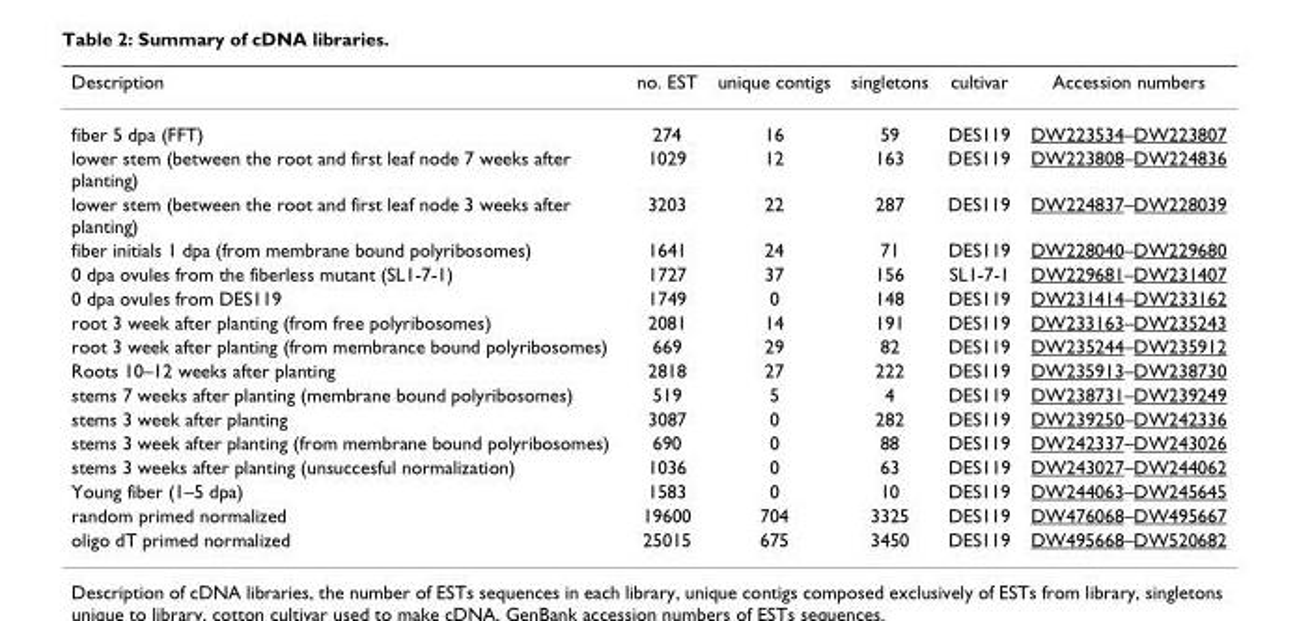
<table><thead><tr><td>Description</td><td>no. EST</td><td>unique contigs</td><td>singletons</td><td>cultivar</td><td>Accession numbers</td></tr></thead><tbody><tr><td>fiber 5 dpa (FFT)</td><td>274</td><td>16</td><td>59</td><td>DES119</td><td>DW223534–DW223807</td></tr><tr><td>lower stem (between the root and first leaf node 7 weeks after planting)</td><td>1029</td><td>12</td><td>163</td><td>DES119</td><td>DW223808–DW224836</td></tr><tr><td>lower stem (between the root and first leaf node 3 weeks after planting)</td><td>3203</td><td>22</td><td>287</td><td>DES119</td><td>DW224837–DW228039</td></tr><tr><td>fiber initials 1 dpa (from membrane bound polyribosomes)</td><td>1641</td><td>24</td><td>71</td><td>DES119</td><td>DW228040–DW229680</td></tr><tr><td>0 dpa ovules from the fiberless mutant (SL1-7-1)</td><td>1727</td><td>37</td><td>156</td><td>SL1-7-1</td><td>DW229681–DW231407</td></tr><tr><td>0 dpa ovules from DES119</td><td>1749</td><td>0</td><td>148</td><td>DES119</td><td>DW231414–DW233162</td></tr><tr><td>root 3 week after planting (from free polyribosomes)</td><td>2081</td><td>14</td><td>191</td><td>DES119</td><td>DW233163–DW235243</td></tr><tr><td>root 3 week after planting (from membrance bound polyribosomes)</td><td>669</td><td>29</td><td>82</td><td>DES119</td><td>DW235244–DW235912</td></tr><tr><td>Roots 10–12 weeks after planting</td><td>2818</td><td>27</td><td>222</td><td>DES119</td><td>DW235913–DW238730</td></tr><tr><td>stems 7 weeks after planting (membrane bound polyribosomes)</td><td>519</td><td>5</td><td>4</td><td>DES119</td><td>DW238731–DW239249</td></tr><tr><td>stems 3 week after planting</td><td>3087</td><td>0</td><td>282</td><td>DES119</td><td>DW239250–DW242336</td></tr><tr><td>stems 3 week after planting (from membrane bound polyribosomes)</td><td>690</td><td>0</td><td>88</td><td>DES119</td><td>DW242337–DW243026</td></tr><tr><td>stems 3 weeks after planting (unsuccesful normalization)</td><td>1036</td><td>0</td><td>63</td><td>DES119</td><td>DW243027–DW244062</td></tr><tr><td>Young fiber (1–5 dpa)</td><td>1583</td><td>0</td><td>10</td><td>DES119</td><td>DW244063–DW245645</td></tr><tr><td>random primed normalized</td><td>19600</td><td>704</td><td>3325</td><td>DES119</td><td>DW476068–DW495667</td></tr><tr><td>oligo dT primed normalized</td><td>25015</td><td>675</td><td>3450</td><td>DES119</td><td>DW495668–DW520682</td></tr></tbody></table>